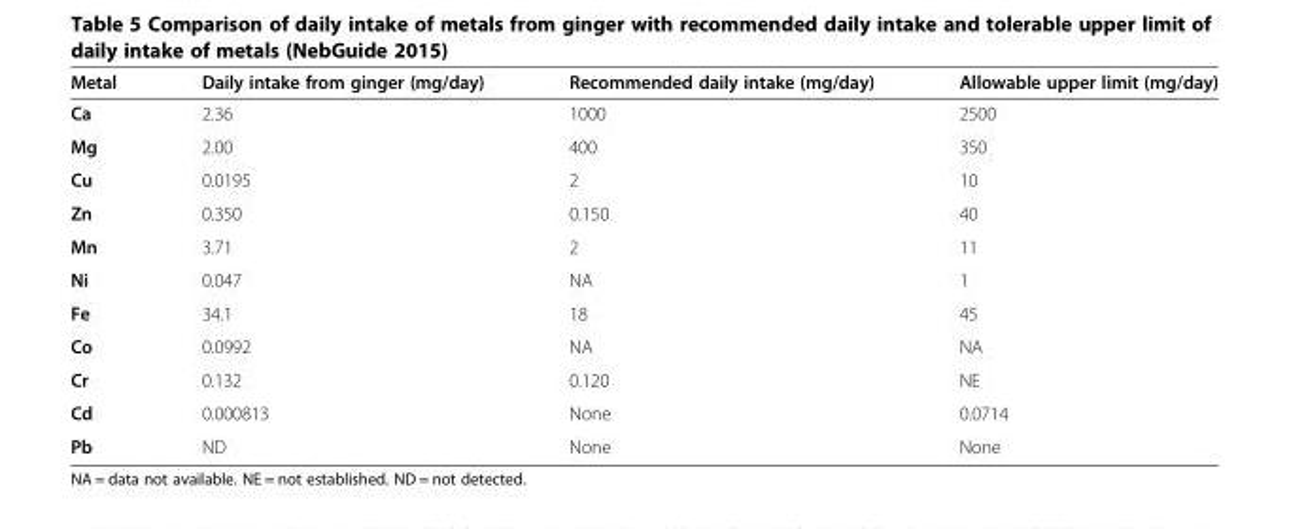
<table><thead><tr><td>Metal</td><td>Daily intake from ginger (mg/day)</td><td>Recommended daily intake (mg/day)</td><td>Allowable upper limit (mg/day)</td></tr></thead><tbody><tr><td>Ca</td><td>2.36</td><td>1000</td><td>2500</td></tr><tr><td>Mg</td><td>2.00</td><td>400</td><td>350</td></tr><tr><td>Cu</td><td>0.0195</td><td>2</td><td>10</td></tr><tr><td>Zn</td><td>0.350</td><td>0.150</td><td>40</td></tr><tr><td>Mn</td><td>3.71</td><td>2</td><td>11</td></tr><tr><td>Ni</td><td>0.047</td><td>NA</td><td>1</td></tr><tr><td>Fe</td><td>34.1</td><td>18</td><td>45</td></tr><tr><td>Co</td><td>0.0992</td><td>NA</td><td>NA</td></tr><tr><td>Cr</td><td>0.132</td><td>0.120</td><td>NE</td></tr><tr><td>Cd</td><td>0.000813</td><td>None</td><td>0.0714</td></tr><tr><td>Pb</td><td>ND</td><td>None</td><td>None</td></tr></tbody></table>